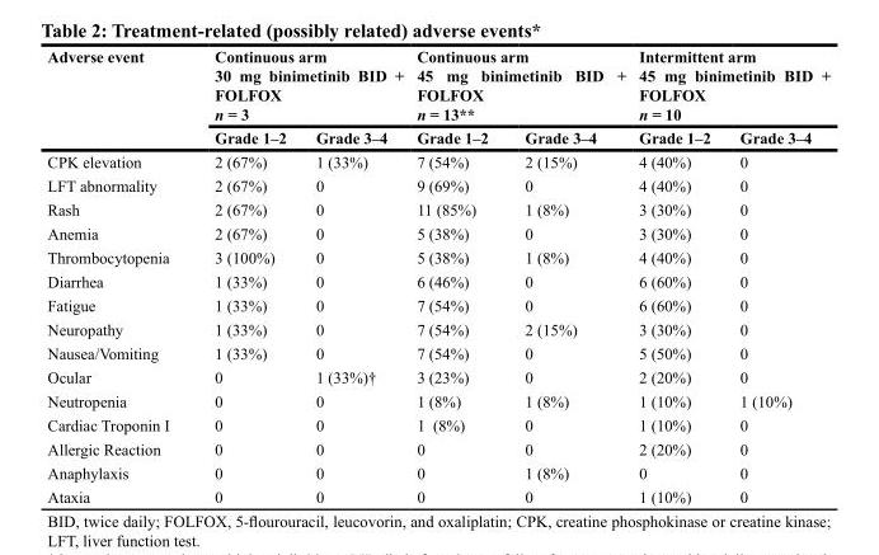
<table><thead><tr><td rowspan="2">Adverse event</td><td colspan="2">Continuous arm 30 mg binimetinib BID + FOLFOX n = 3</td><td colspan="2">Continuous arm 45 mg binimetinib BID + FOLFOX n = 13**</td><td colspan="2">Intermittent arm 45 mg binimetinib BID + FOLFOX n = 10</td></tr><tr><td>Grade 1–2</td><td>Grade 3–4</td><td>Grade 1–2</td><td>Grade 3–4</td><td>Grade 1–2</td><td>Grade 3–4</td></tr></thead><tbody><tr><td>CPK elevation</td><td>2 (67%)</td><td>1 (33%)</td><td>7 (54%)</td><td>2 (15%)</td><td>4 (40%)</td><td>0</td></tr><tr><td>LFT abnormality</td><td>2 (67%)</td><td>0</td><td>9 (69%)</td><td>0</td><td>4 (40%)</td><td>0</td></tr><tr><td>Rash</td><td>2 (67%)</td><td>0</td><td>11 (85%)</td><td>1 (8%)</td><td>3 (30%)</td><td>0</td></tr><tr><td>Anemia</td><td>2 (67%)</td><td>0</td><td>5 (38%)</td><td>0</td><td>3 (30%)</td><td>0</td></tr><tr><td>Thrombocytopenia</td><td>3 (100%)</td><td>0</td><td>5 (38%)</td><td>1 (8%)</td><td>4 (40%)</td><td>0</td></tr><tr><td>Diarrhea</td><td>1 (33%)</td><td>0</td><td>6 (46%)</td><td>0</td><td>6 (60%)</td><td>0</td></tr><tr><td>Fatigue</td><td>1 (33%)</td><td>0</td><td>7 (54%)</td><td>0</td><td>6 (60%)</td><td>0</td></tr><tr><td>Neuropathy</td><td>1 (33%)</td><td>0</td><td>7 (54%)</td><td>2 (15%)</td><td>3 (30%)</td><td>0</td></tr><tr><td>Nausea/Vomiting</td><td>1 (33%)</td><td>0</td><td>7 (54%)</td><td>0</td><td>5 (50%)</td><td>0</td></tr><tr><td>Ocular</td><td>0</td><td>1 (33%)†</td><td>3 (23%)</td><td>0</td><td>2 (20%)</td><td>0</td></tr><tr><td>Neutropenia</td><td>0</td><td>0</td><td>1 (8%)</td><td>1 (8%)</td><td>1 (10%)</td><td>1 (10%)</td></tr><tr><td>Cardiac Troponin I</td><td>0</td><td>0</td><td>1 (8%)</td><td>0</td><td>1 (10%)</td><td>0</td></tr><tr><td>Allergic Reaction</td><td>0</td><td>0</td><td>0</td><td>0</td><td>2 (20%)</td><td>0</td></tr><tr><td>Anaphylaxis</td><td>0</td><td>0</td><td>0</td><td>1 (8%)</td><td>0</td><td>0</td></tr><tr><td>Ataxia</td><td>0</td><td>0</td><td>0</td><td>0</td><td>1 (10%)</td><td>0</td></tr></tbody></table>